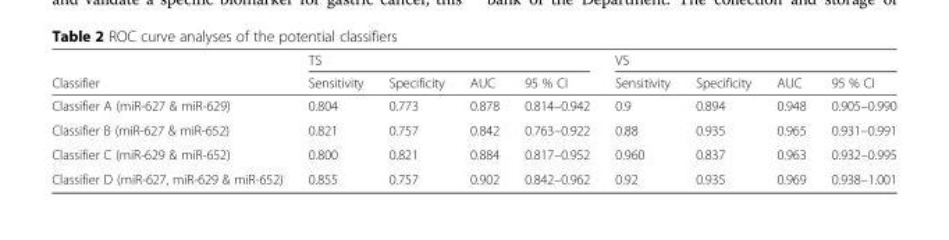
<table><thead><tr><td rowspan="2">Classifier</td><td colspan="4">TS</td><td colspan="4">VS</td></tr><tr><td>Sensitivity</td><td>Specificity</td><td>AUC</td><td>95 % CI</td><td>Sensitivity</td><td>Specificity</td><td>AUC</td><td>95 % CI</td></tr></thead><tbody><tr><td>Classifier A (miR-627 &amp; miR-629)</td><td>0.804</td><td>0.773</td><td>0.878</td><td>0.814–0.942</td><td>0.9</td><td>0.894</td><td>0.948</td><td>0.905–0.990</td></tr><tr><td>Classifier B (miR-627 &amp; miR-652)</td><td>0.821</td><td>0.757</td><td>0.842</td><td>0.763–0.922</td><td>0.88</td><td>0.935</td><td>0.965</td><td>0.931–0.991</td></tr><tr><td>Classifier C (miR-629 &amp; miR-652)</td><td>0.800</td><td>0.821</td><td>0.884</td><td>0.817–0.952</td><td>0.960</td><td>0.837</td><td>0.963</td><td>0.932–0.995</td></tr><tr><td>Classifier D (miR-627, miR-629 &amp; miR-652)</td><td>0.855</td><td>0.757</td><td>0.902</td><td>0.842–0.962</td><td>0.92</td><td>0.935</td><td>0.969</td><td>0.938–1.001</td></tr></tbody></table>